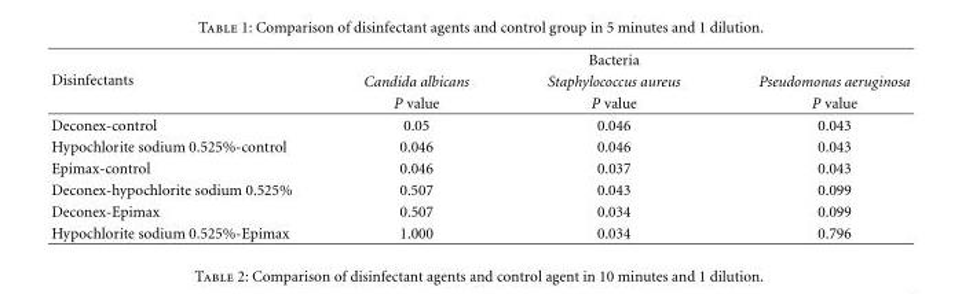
<table><thead><tr><td rowspan="3">Disinfectants</td><td colspan="3">Bacteria</td></tr><tr><td rowspan="2">Candida albicans P value</td><td rowspan="2">Staphylococcus aureus P value</td><td rowspan="2">Pseudomonas aeruginosa P value</td></tr><tr></tr></thead><tbody><tr><td>Deconex-control</td><td>0.05</td><td>0.046</td><td>0.043</td></tr><tr><td>Hypochlorite sodium 0.525%-control</td><td>0.046</td><td>0.046</td><td>0.043</td></tr><tr><td>Epimax-control</td><td>0.046</td><td>0.037</td><td>0.043</td></tr><tr><td>Deconex-hypochlorite sodium 0.525%</td><td>0.507</td><td>0.043</td><td>0.099</td></tr><tr><td>Deconex-Epimax</td><td>0.507</td><td>0.034</td><td>0.099</td></tr><tr><td>Hypochlorite sodium 0.525%-Epimax</td><td>1.000</td><td>0.034</td><td>0.796</td></tr></tbody></table>